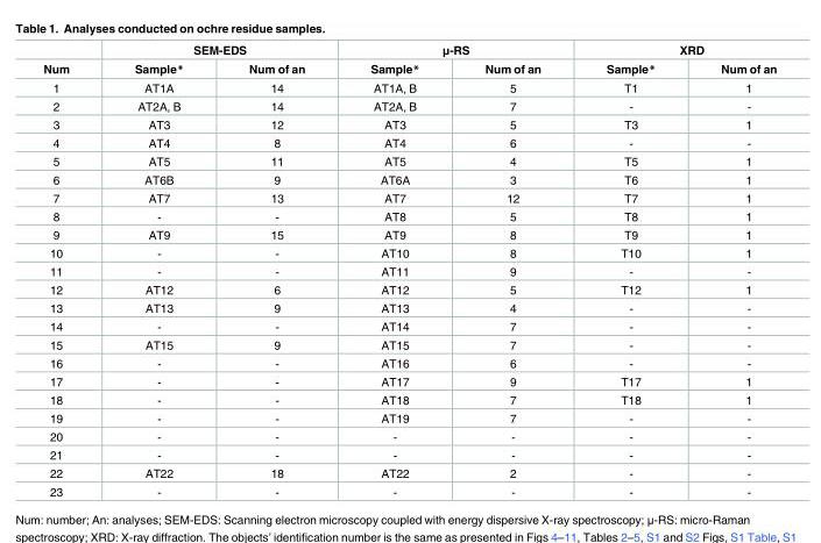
<table><thead><tr><td rowspan="2">Num</td><td colspan="2">SEM-EDS</td><td colspan="2">μ-RS</td><td colspan="2">XRD</td></tr><tr><td>Sample*</td><td>Num of an</td><td>Sample*</td><td>Num of an</td><td>Sample*</td><td>Num of an</td></tr></thead><tbody><tr><td>1</td><td>AT1A</td><td>14</td><td>AT1A, B</td><td>5</td><td>T1</td><td>1</td></tr><tr><td>2</td><td>AT2A, B</td><td>14</td><td>AT2A, B</td><td>7</td><td>-</td><td>-</td></tr><tr><td>3</td><td>AT3</td><td>12</td><td>AT3</td><td>5</td><td>T3</td><td>1</td></tr><tr><td>4</td><td>AT4</td><td>8</td><td>AT4</td><td>6</td><td>-</td><td>-</td></tr><tr><td>5</td><td>AT5</td><td>11</td><td>AT5</td><td>4</td><td>T5</td><td>1</td></tr><tr><td>6</td><td>AT6B</td><td>9</td><td>AT6A</td><td>3</td><td>T6</td><td>1</td></tr><tr><td>7</td><td>AT7</td><td>13</td><td>AT7</td><td>12</td><td>T7</td><td>1</td></tr><tr><td>8</td><td>-</td><td>-</td><td>AT8</td><td>5</td><td>T8</td><td>1</td></tr><tr><td>9</td><td>AT9</td><td>15</td><td>AT9</td><td>8</td><td>T9</td><td>1</td></tr><tr><td>10</td><td>-</td><td>-</td><td>AT10</td><td>8</td><td>T10</td><td>1</td></tr><tr><td>11</td><td>-</td><td>-</td><td>AT11</td><td>9</td><td>-</td><td>-</td></tr><tr><td>12</td><td>AT12</td><td>6</td><td>AT12</td><td>5</td><td>T12</td><td>1</td></tr><tr><td>13</td><td>AT13</td><td>9</td><td>AT13</td><td>4</td><td>-</td><td>-</td></tr><tr><td>14</td><td>-</td><td>-</td><td>AT14</td><td>7</td><td>-</td><td>-</td></tr><tr><td>15</td><td>AT15</td><td>9</td><td>AT15</td><td>7</td><td>-</td><td>-</td></tr><tr><td>16</td><td>-</td><td>-</td><td>AT16</td><td>6</td><td>-</td><td>-</td></tr><tr><td>17</td><td>-</td><td>-</td><td>AT17</td><td>9</td><td>T17</td><td>1</td></tr><tr><td>18</td><td>-</td><td>-</td><td>AT18</td><td>7</td><td>T18</td><td>1</td></tr><tr><td>19</td><td>-</td><td>-</td><td>AT19</td><td>7</td><td>-</td><td>-</td></tr><tr><td>20</td><td>-</td><td>-</td><td>-</td><td>-</td><td>-</td><td>-</td></tr><tr><td>21</td><td>-</td><td>-</td><td>-</td><td>-</td><td>-</td><td>-</td></tr><tr><td>22</td><td>AT22</td><td>18</td><td>AT22</td><td>2</td><td>-</td><td>-</td></tr><tr><td>23</td><td>-</td><td>-</td><td>-</td><td>-</td><td>-</td><td>-</td></tr></tbody></table>